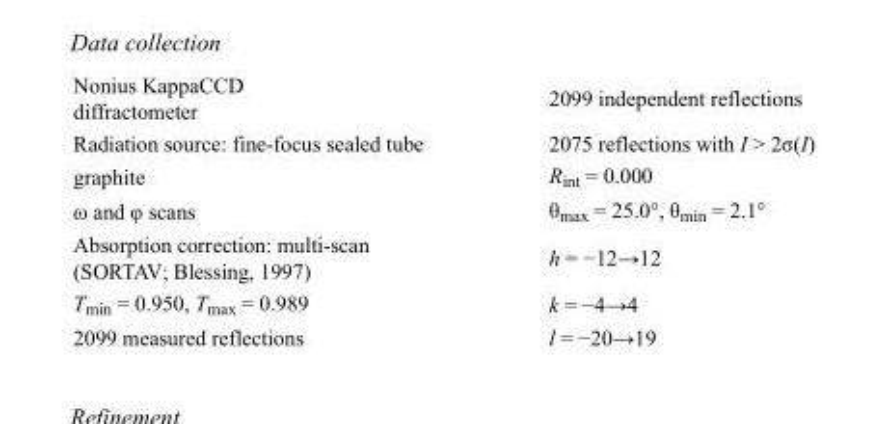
<table><tbody><tr><td>Nonius KappaCCD diffractometer</td><td>2099 independent reflections</td></tr><tr><td>Radiation source: fine-focus sealed tube</td><td>2075 reflections with I &gt; 2σ(I)</td></tr><tr><td>graphite</td><td>R<sub>int</sub> = 0.000</td></tr><tr><td>ω and φ scans</td><td>θ<sub>max</sub> = 25.0°, θ<sub>min</sub> = 2.1°</td></tr><tr><td>Absorption correction: multi-scan (SORTAV; Blessing, 1997)</td><td>h = −12→12</td></tr><tr><td>T<sub>min</sub> = 0.950, T<sub>max</sub> = 0.989</td><td>k = −4→4</td></tr><tr><td>2099 measured reflections</td><td>l = −20→19</td></tr></tbody></table>